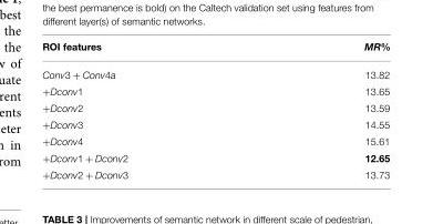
<table><thead><tr><td>ROI features</td><td>MR%</td></tr></thead><tbody><tr><td>Conv3 + Conv4a</td><td>13.82</td></tr><tr><td>+Dconv1</td><td>13.65</td></tr><tr><td>+Dconv2</td><td>13.59</td></tr><tr><td>+Dconv3</td><td>14.55</td></tr><tr><td>+Dconv4</td><td>15.61</td></tr><tr><td>+Dconv1 + Dconv2</td><td>12.65</td></tr><tr><td>+Dconv2 + Dconv3</td><td>13.73</td></tr></tbody></table>